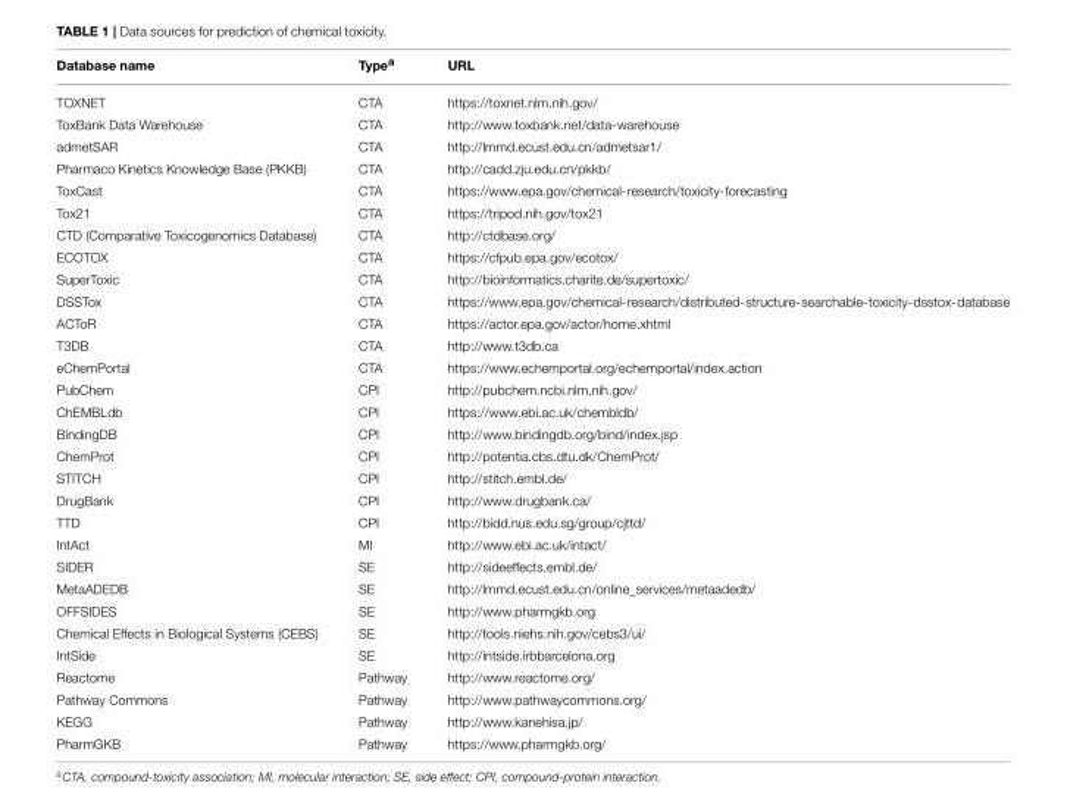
<table><thead><tr><td>Database name</td><td>Type<sup>a</sup></td><td>URL</td></tr></thead><tbody><tr><td>TOXNET</td><td>CTA</td><td>https://toxnet.nlm.nih.gov/</td></tr><tr><td>ToxBank Data Warehouse</td><td>CTA</td><td>http://www.toxbank.net/data-warehouse</td></tr><tr><td>admetSAR</td><td>CTA</td><td>http://lmmd.ecust.edu.cn/admetsar1/</td></tr><tr><td>Pharmaco Kinetics Knowledge Base (PKKB)</td><td>CTA</td><td>http://cadd.zju.edu.cn/pkkb/</td></tr><tr><td>ToxCast</td><td>CTA</td><td>https://www.epa.gov/chemical-research/toxicity-forecasting</td></tr><tr><td>Tox21</td><td>CTA</td><td>https://tripod.nih.gov/tox21</td></tr><tr><td>CTD (Comparative Toxicogenomics Database)</td><td>CTA</td><td>http://ctdbase.org/</td></tr><tr><td>ECOTOX</td><td>CTA</td><td>https://cfpub.epa.gov/ecotox/</td></tr><tr><td>SuperToxic</td><td>CTA</td><td>http://bioinformatics.charite.de/supertoxic/</td></tr><tr><td>DSSTox</td><td>CTA</td><td>https://www.epa.gov/chemical-research/distributed-structure-searchable-toxicity-dsstox-database</td></tr><tr><td>ACToR</td><td>CTA</td><td>https://actor.epa.gov/actor/home.xhtml</td></tr><tr><td>T3DB</td><td>CTA</td><td>http://www.t3db.ca</td></tr><tr><td>eChemPortal</td><td>CTA</td><td>https://www.echemportal.org/echemportal/index.action</td></tr><tr><td>PubChem</td><td>CPI</td><td>http://pubchem.ncbi.nlm.nih.gov/</td></tr><tr><td>ChEMBLdb</td><td>CPI</td><td>https://www.ebi.ac.uk/chembldb/</td></tr><tr><td>BindingDB</td><td>CPI</td><td>http://www.bindingdb.org/bind/index.jsp</td></tr><tr><td>ChemProt</td><td>CPI</td><td>http://potentia.cbs.dtu.dk/ChemProt/</td></tr><tr><td>STITCH</td><td>CPI</td><td>http://stitch.embl.de/</td></tr><tr><td>DrugBank</td><td>CPI</td><td>http://www.drugbank.ca/</td></tr><tr><td>TTD</td><td>CPI</td><td>http://bidd.nus.edu.sg/group/cjttd/</td></tr><tr><td>IntAct</td><td>MI</td><td>http://www.ebi.ac.uk/intact/</td></tr><tr><td>SIDER</td><td>SE</td><td>http://sideeffects.embl.de/</td></tr><tr><td>MetaADEDB</td><td>SE</td><td>http://lmmd.ecust.edu.cn/online_services/metaadedb/</td></tr><tr><td>OFFSIDES</td><td>SE</td><td>http://www.pharmgkb.org</td></tr><tr><td>Chemical Effects in Biological Systems (CEBS)</td><td>SE</td><td>http://tools.niehs.nih.gov/cebs3/ui/</td></tr><tr><td>IntSide</td><td>SE</td><td>http://intside.irbbarcelona.org</td></tr><tr><td>Reactome</td><td>Pathway</td><td>http://www.reactome.org/</td></tr><tr><td>Pathway Commons</td><td>Pathway</td><td>http://www.pathwaycommons.org/</td></tr><tr><td>KEGG</td><td>Pathway</td><td>http://www.kanehisa.jp/</td></tr><tr><td>PharmGKB</td><td>Pathway</td><td>https://www.pharmgkb.org/</td></tr></tbody></table>